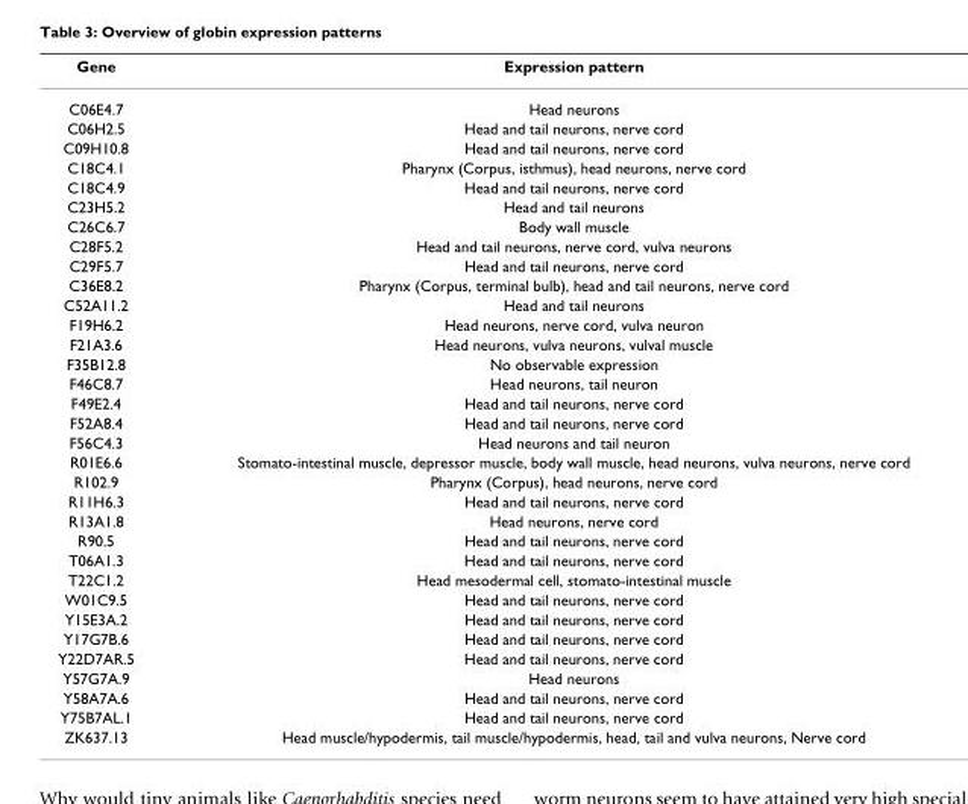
<table><thead><tr><td>Gene</td><td>Expression pattern</td></tr></thead><tbody><tr><td>C06E4.7</td><td>Head neurons</td></tr><tr><td>C06H2.5</td><td>Head and tail neurons, nerve cord</td></tr><tr><td>C09H10.8</td><td>Head and tail neurons, nerve cord</td></tr><tr><td>C18C4.1</td><td>Pharynx (Corpus, isthmus), head neurons, nerve cord</td></tr><tr><td>C18C4.9</td><td>Head and tail neurons, nerve cord</td></tr><tr><td>C23H5.2</td><td>Head and tail neurons</td></tr><tr><td>C26C6.7</td><td>Body wall muscle</td></tr><tr><td>C28F5.2</td><td>Head and tail neurons, nerve cord, vulva neurons</td></tr><tr><td>C29F5.7</td><td>Head and tail neurons, nerve cord</td></tr><tr><td>C36E8.2</td><td>Pharynx (Corpus, terminal bulb), head and tail neurons, nerve cord</td></tr><tr><td>C52A11.2</td><td>Head and tail neurons</td></tr><tr><td>F19H6.2</td><td>Head neurons, nerve cord, vulva neuron</td></tr><tr><td>F21A3.6</td><td>Head neurons, vulva neurons, vulval muscle</td></tr><tr><td>F35B12.8</td><td>No observable expression</td></tr><tr><td>F46C8.7</td><td>Head neurons, tail neuron</td></tr><tr><td>F49E2.4</td><td>Head and tail neurons, nerve cord</td></tr><tr><td>F52A8.4</td><td>Head and tail neurons, nerve cord</td></tr><tr><td>F56C4.3</td><td>Head neurons and tail neuron</td></tr><tr><td>R01E6.6</td><td>Stomato-intestinal muscle, depressor muscle, body wall muscle, head neurons, vulva neurons, nerve cord</td></tr><tr><td>R102.9</td><td>Pharynx (Corpus), head neurons, nerve cord</td></tr><tr><td>R11H6.3</td><td>Head and tail neurons, nerve cord</td></tr><tr><td>R13A1.8</td><td>Head neurons, nerve cord</td></tr><tr><td>R90.5</td><td>Head and tail neurons, nerve cord</td></tr><tr><td>T06A1.3</td><td>Head and tail neurons, nerve cord</td></tr><tr><td>T22C1.2</td><td>Head mesodermal cell, stomato-intestinal muscle</td></tr><tr><td>W01C9.5</td><td>Head and tail neurons, nerve cord</td></tr><tr><td>Y15E3A.2</td><td>Head and tail neurons, nerve cord</td></tr><tr><td>Y17G7B.6</td><td>Head and tail neurons, nerve cord</td></tr><tr><td>Y22D7AR.5</td><td>Head and tail neurons, nerve cord</td></tr><tr><td>Y57G7A.9</td><td>Head neurons</td></tr><tr><td>Y58A7A.6</td><td>Head and tail neurons, nerve cord</td></tr><tr><td>Y75B7AL.1</td><td>Head and tail neurons, nerve cord</td></tr><tr><td>ZK637.13</td><td>Head muscle/hypodermis, tail muscle/hypodermis, head, tail and vulva neurons, Nerve cord</td></tr></tbody></table>